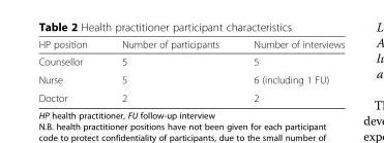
<table><thead><tr><td>HP position</td><td>Number of participants</td><td>Number of interviews</td></tr></thead><tbody><tr><td>Counsellor</td><td>5</td><td>5</td></tr><tr><td>Nurse</td><td>5</td><td>6 (including 1 FU)</td></tr><tr><td>Doctor</td><td>2</td><td>2</td></tr></tbody></table>